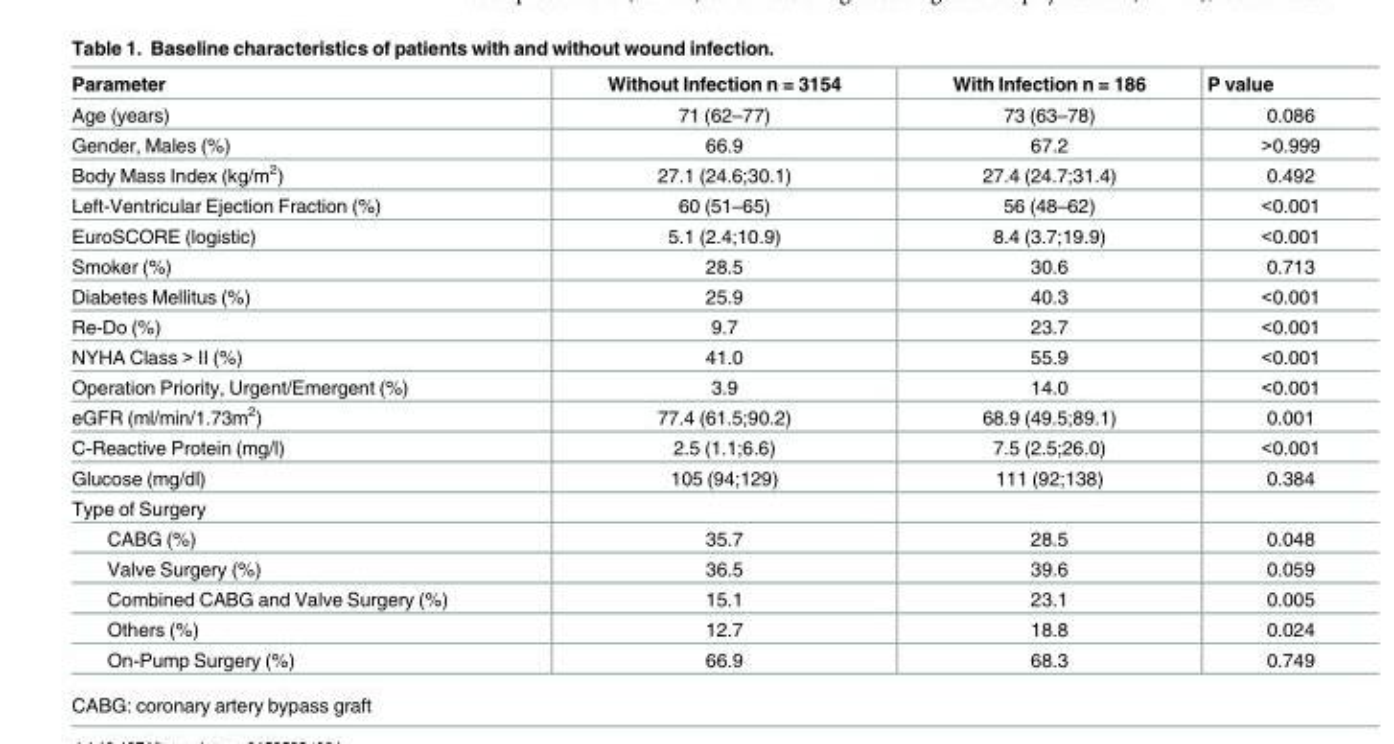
<table><thead><tr><td>Parameter</td><td>Without Infection n = 3154</td><td>With Infection n = 186</td><td>P value</td></tr></thead><tbody><tr><td>Age (years)</td><td>71 (62–77)</td><td>73 (63–78)</td><td>0.086</td></tr><tr><td>Gender, Males (%)</td><td>66.9</td><td>67.2</td><td>&gt;0.999</td></tr><tr><td>Body Mass Index (kg/m<sup>2</sup>)</td><td>27.1 (24.6;30.1)</td><td>27.4 (24.7;31.4)</td><td>0.492</td></tr><tr><td>Left-Ventricular Ejection Fraction (%)</td><td>60 (51–65)</td><td>56 (48–62)</td><td>&lt;0.001</td></tr><tr><td>EuroSCORE (logistic)</td><td>5.1 (2.4;10.9)</td><td>8.4 (3.7;19.9)</td><td>&lt;0.001</td></tr><tr><td>Smoker (%)</td><td>28.5</td><td>30.6</td><td>0.713</td></tr><tr><td>Diabetes Mellitus (%)</td><td>25.9</td><td>40.3</td><td>&lt;0.001</td></tr><tr><td>Re-Do (%)</td><td>9.7</td><td>23.7</td><td>&lt;0.001</td></tr><tr><td>NYHA Class &gt; II (%)</td><td>41.0</td><td>55.9</td><td>&lt;0.001</td></tr><tr><td>Operation Priority, Urgent/Emergent (%)</td><td>3.9</td><td>14.0</td><td>&lt;0.001</td></tr><tr><td>eGFR (ml/min/1.73m<sup>2</sup>)</td><td>77.4 (61.5;90.2)</td><td>68.9 (49.5;89.1)</td><td>0.001</td></tr><tr><td>C-Reactive Protein (mg/l)</td><td>2.5 (1.1;6.6)</td><td>7.5 (2.5;26.0)</td><td>&lt;0.001</td></tr><tr><td>Glucose (mg/dl)</td><td>105 (94;129)</td><td>111 (92;138)</td><td>0.384</td></tr><tr><td colspan="4">Type of Surgery</td></tr><tr><td>CABG (%)</td><td>35.7</td><td>28.5</td><td>0.048</td></tr><tr><td>Valve Surgery (%)</td><td>36.5</td><td>39.6</td><td>0.059</td></tr><tr><td>Combined CABG and Valve Surgery (%)</td><td>15.1</td><td>23.1</td><td>0.005</td></tr><tr><td>Others (%)</td><td>12.7</td><td>18.8</td><td>0.024</td></tr><tr><td>On-Pump Surgery (%)</td><td>66.9</td><td>68.3</td><td>0.749</td></tr></tbody></table>